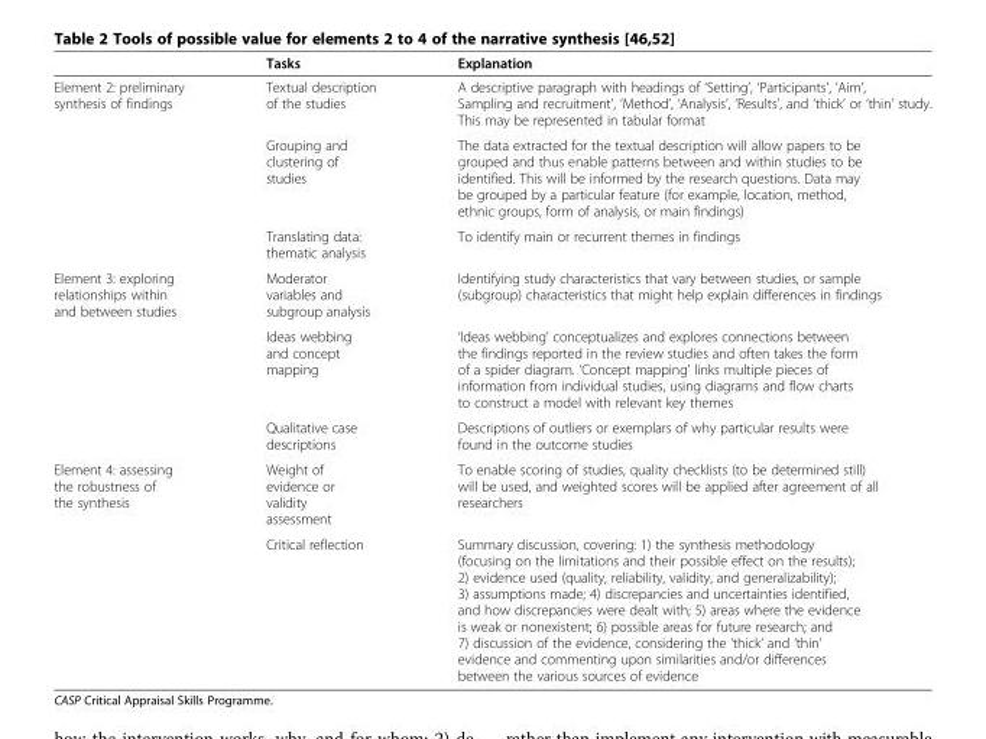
<table><thead><tr><td></td><td>Tasks</td><td>Explanation</td></tr></thead><tbody><tr><td rowspan="3">Element 2: preliminary synthesis of findings</td><td>Textual description of the studies</td><td>A descriptive paragraph with headings of ‘Setting’, ‘Participants’, ‘Aim’, Sampling and recruitment’, ‘Method’, ‘Analysis’, ‘Results’, and ‘thick’ or ‘thin’ study. This may be represented in tabular format</td></tr><tr><td>Grouping and clustering of studies</td><td>The data extracted for the textual description will allow papers to be grouped and thus enable patterns between and within studies to be identified. This will be informed by the research questions. Data may be grouped by a particular feature (for example, location, method, ethnic groups, form of analysis, or main findings)</td></tr><tr><td>Translating data: thematic analysis</td><td>To identify main or recurrent themes in findings</td></tr><tr><td rowspan="3">Element 3: exploring relationships within and between studies</td><td>Moderator variables and subgroup analysis</td><td>Identifying study characteristics that vary between studies, or sample (subgroup) characteristics that might help explain differences in findings</td></tr><tr><td>Ideas webbing and concept mapping</td><td>‘Ideas webbing’ conceptualizes and explores connections between the findings reported in the review studies and often takes the form of a spider diagram. ‘Concept mapping’ links multiple pieces of information from individual studies, using diagrams and flow charts to construct a model with relevant key themes</td></tr><tr><td>Qualitative case descriptions</td><td>Descriptions of outliers or exemplars of why particular results were found in the outcome studies</td></tr><tr><td rowspan="2">Element 4: assessing the robustness of the synthesis</td><td>Weight of evidence or validity assessment</td><td>To enable scoring of studies, quality checklists (to be determined still) will be used, and weighted scores will be applied after agreement of all researchers</td></tr><tr><td>Critical reflection</td><td>Summary discussion, covering: 1) the synthesis methodology (focusing on the limitations and their possible effect on the results); 2) evidence used (quality, reliability, validity, and generalizability); 3) assumptions made; 4) discrepancies and uncertainties identified, and how discrepancies were dealt with; 5) areas where the evidence is weak or nonexistent; 6) possible areas for future research; and 7) discussion of the evidence, considering the ‘thick’ and ‘thin’ evidence and commenting upon similarities and/or differences between the various sources of evidence</td></tr></tbody></table>